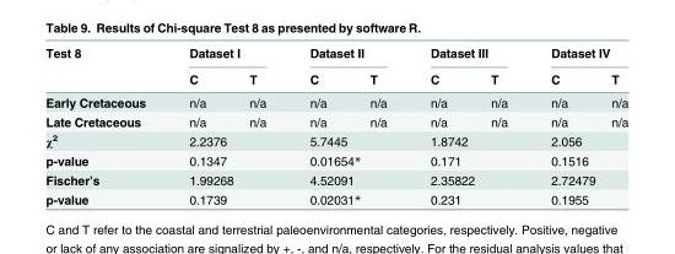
<table><thead><tr><td rowspan="2">Test 8</td><td colspan="2">Dataset I</td><td colspan="2">Dataset II</td><td colspan="2">Dataset III</td><td colspan="2">Dataset IV</td></tr><tr><td>C</td><td>T</td><td>C</td><td>T</td><td>C</td><td>T</td><td>C</td><td>T</td></tr></thead><tbody><tr><td>Early Cretaceous</td><td>n/a</td><td>n/a</td><td>n/a</td><td>n/a</td><td>n/a</td><td>n/a</td><td>n/a</td><td>n/a</td></tr><tr><td>Late Cretaceous</td><td>n/a</td><td>n/a</td><td>n/a</td><td>n/a</td><td>n/a</td><td>n/a</td><td>n/a</td><td>n/a</td></tr><tr><td>χ<sup>2</sup></td><td colspan="2">2.2376</td><td colspan="2">5.7445</td><td colspan="2">1.8742</td><td colspan="2">2.056</td></tr><tr><td>p-value</td><td colspan="2">0.1347</td><td colspan="2">0.01654*</td><td colspan="2">0.171</td><td colspan="2">0.1516</td></tr><tr><td>Fischer’s</td><td colspan="2">1.99268</td><td colspan="2">4.52091</td><td colspan="2">2.35822</td><td colspan="2">2.72479</td></tr><tr><td>p-value</td><td colspan="2">0.1739</td><td colspan="2">0.02031*</td><td colspan="2">0.231</td><td colspan="2">0.1955</td></tr></tbody></table>